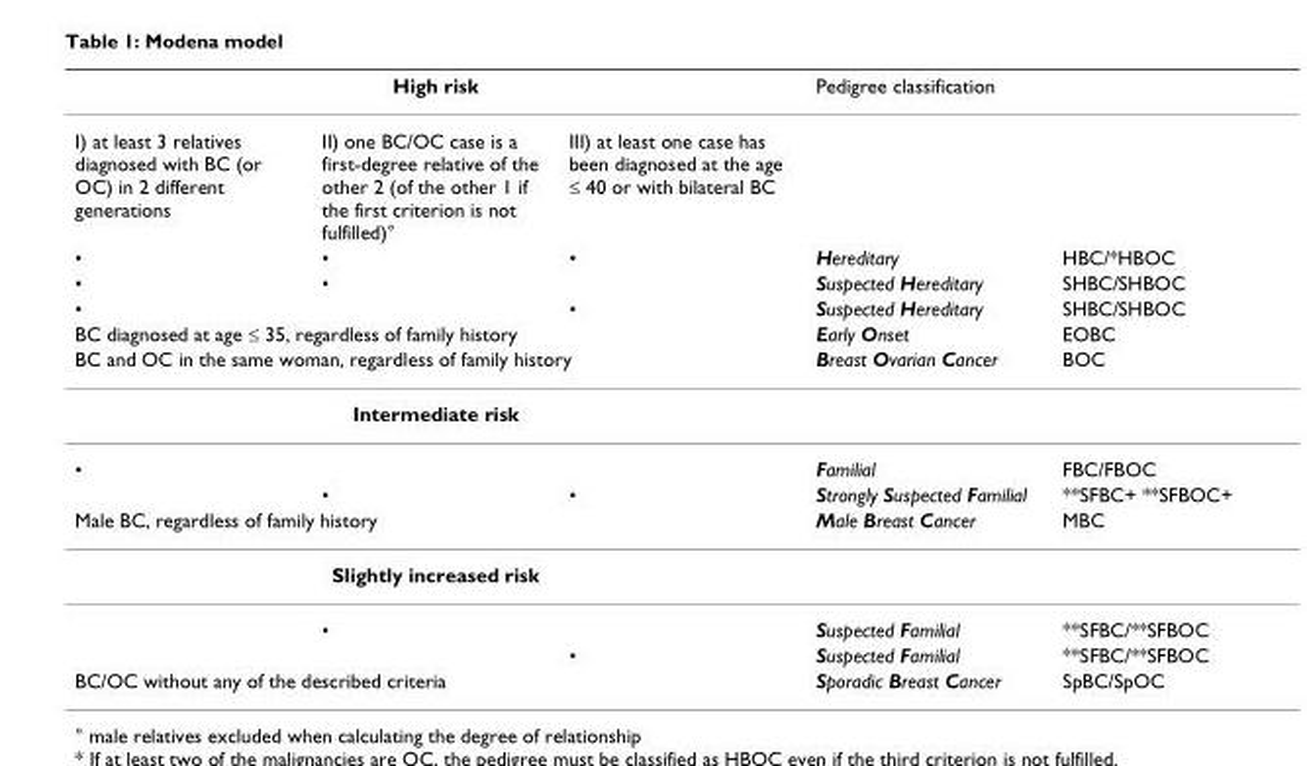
<table><thead><tr><td colspan="3">High risk</td><td colspan="2">Pedigree classification</td></tr><tr><td>I) at least 3 relatives diagnosed with BC (or OC) in 2 different generations</td><td>II) one BC/OC case is a first-degree relative of the other 2 (of the other 1 if the first criterion is not fulfilled)°</td><td>III) at least one case has been diagnosed at the age ≤ 40 or with bilateral BC</td><td></td><td></td></tr></thead><tbody><tr><td>•</td><td>•</td><td>•</td><td>Hereditary</td><td>HBC/*HBOC</td></tr><tr><td>•</td><td>•</td><td></td><td>Suspected Hereditary</td><td>SHBC/SHBOC</td></tr><tr><td>•</td><td></td><td>•</td><td>Suspected Hereditary</td><td>SHBC/SHBOC</td></tr><tr><td colspan="3">BC diagnosed at age ≤ 35, regardless of family history</td><td>Early Onset</td><td>EOBC</td></tr><tr><td colspan="3">BC and OC in the same woman, regardless of family history</td><td>Breast Ovarian Cancer</td><td>BOC</td></tr><tr><td colspan="5">Intermediate risk</td></tr><tr><td rowspan="2">•</td><td></td><td></td><td>Familial</td><td>FBC/FBOC</td></tr><tr><td>•</td><td>•</td><td>Strongly Suspected Familial</td><td>**SFBC+ **SFBOC+</td></tr><tr><td colspan="3">Male BC, regardless of family history</td><td>Male Breast Cancer</td><td>MBC</td></tr><tr><td colspan="5">Slightly increased risk</td></tr><tr><td></td><td>•</td><td></td><td>Suspected Familial</td><td>**SFBC/**SFBOC</td></tr><tr><td></td><td></td><td>•</td><td>Suspected Familial</td><td>**SFBC/**SFBOC</td></tr><tr><td colspan="3">BC/OC without any of the described criteria</td><td>Sporadic Breast Cancer</td><td>SpBC/SpOC</td></tr></tbody></table>